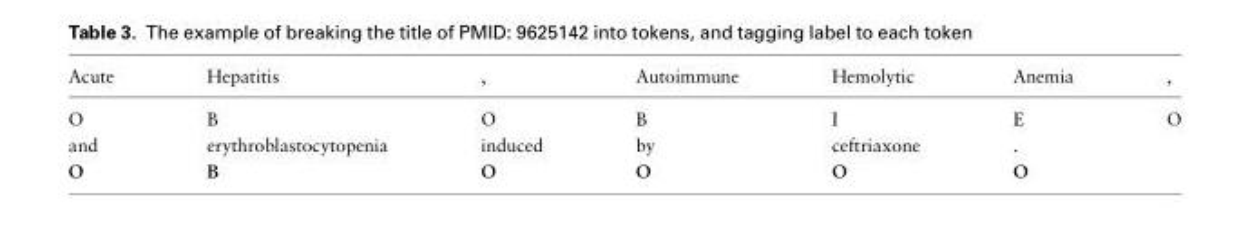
<table><thead><tr><td>Acute</td><td>Hepatitis</td><td>,</td><td>Autoimmune</td><td>Hemolytic</td><td>Anemia</td><td>,</td></tr></thead><tbody><tr><td>O</td><td>B</td><td>O</td><td>B</td><td>I</td><td>E</td><td>O</td></tr><tr><td>and</td><td>erythroblastocytopenia</td><td>induced</td><td>by</td><td>ceftriaxone</td><td>.</td><td></td></tr><tr><td>O</td><td>B</td><td>O</td><td>O</td><td>O</td><td>O</td><td></td></tr></tbody></table>